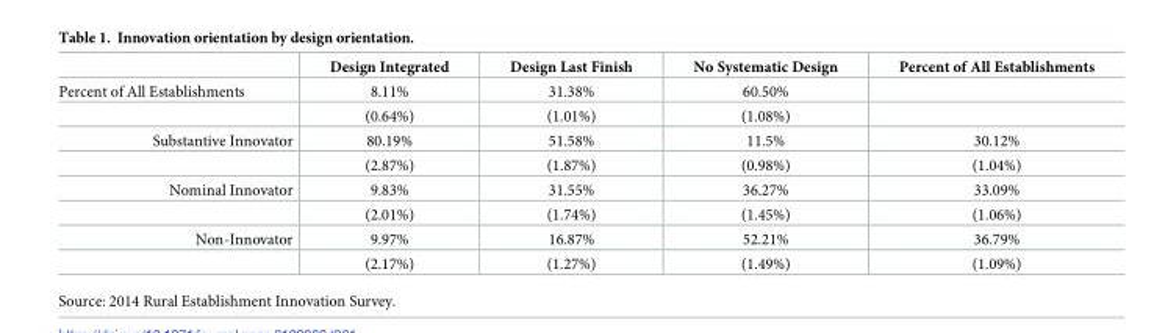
<table><thead><tr><td></td><td>Design Integrated</td><td>Design Last Finish</td><td>No Systematic Design</td><td>Percent of All Establishments</td></tr></thead><tbody><tr><td rowspan="2">Percent of All Establishments</td><td>8.11%</td><td>31.38%</td><td>60.50%</td><td></td></tr><tr><td>(0.64%)</td><td>(1.01%)</td><td>(1.08%)</td><td></td></tr><tr><td rowspan="2">Substantive Innovator</td><td>80.19%</td><td>51.58%</td><td>11.5%</td><td>30.12%</td></tr><tr><td>(2.87%)</td><td>(1.87%)</td><td>(0.98%)</td><td>(1.04%)</td></tr><tr><td rowspan="2">Nominal Innovator</td><td>9.83%</td><td>31.55%</td><td>36.27%</td><td>33.09%</td></tr><tr><td>(2.01%)</td><td>(1.74%)</td><td>(1.45%)</td><td>(1.06%)</td></tr><tr><td rowspan="2">Non-Innovator</td><td>9.97%</td><td>16.87%</td><td>52.21%</td><td>36.79%</td></tr><tr><td>(2.17%)</td><td>(1.27%)</td><td>(1.49%)</td><td>(1.09%)</td></tr></tbody></table>